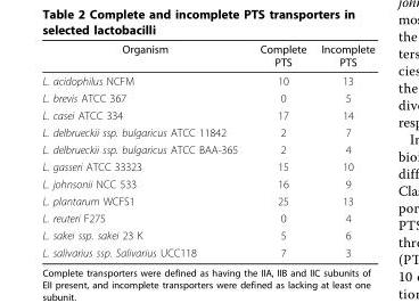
<table><thead><tr><td>Organism</td><td>Complete PTS</td><td>Incomplete PTS</td></tr></thead><tbody><tr><td>L. acidophilus NCFM</td><td>10</td><td>13</td></tr><tr><td>L. brevis ATCC 367</td><td>0</td><td>5</td></tr><tr><td>L. casei ATCC 334</td><td>17</td><td>14</td></tr><tr><td>L. delbrueckii ssp. bulgaricus ATCC 11842</td><td>2</td><td>7</td></tr><tr><td>L. delbrueckii ssp. bulgaricus ATCC BAA-365</td><td>2</td><td>4</td></tr><tr><td>L. gasseri ATCC 33323</td><td>15</td><td>10</td></tr><tr><td>L. johnsonii NCC 533</td><td>16</td><td>9</td></tr><tr><td>L. plantarum WCFS1</td><td>25</td><td>13</td></tr><tr><td>L. reuteri F275</td><td>0</td><td>4</td></tr><tr><td>L. sakei ssp. sakei 23 K</td><td>5</td><td>6</td></tr><tr><td>L. salivarius ssp. Salivarius UCC118</td><td>7</td><td>3</td></tr></tbody></table>